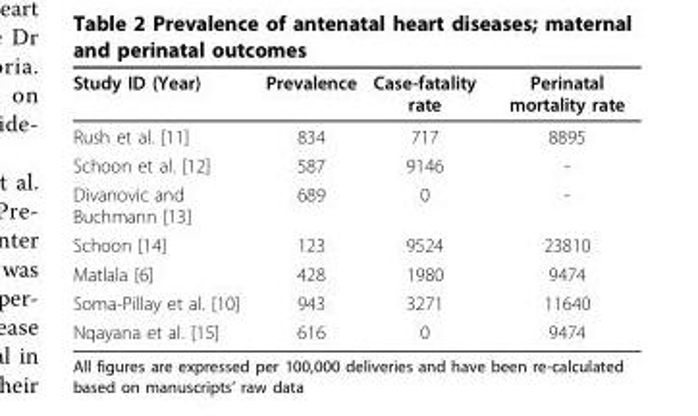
<table><thead><tr><td>Study ID (Year)</td><td>Prevalence</td><td>Case-fatality rate</td><td>Perinatal mortality rate</td></tr></thead><tbody><tr><td>Rush et al. [11]</td><td>834</td><td>717</td><td>8895</td></tr><tr><td>Schoon et al. [12]</td><td>587</td><td>9146</td><td>-</td></tr><tr><td>Divanovic and Buchmann [13]</td><td>689</td><td>0</td><td>-</td></tr><tr><td>Schoon [14]</td><td>123</td><td>9524</td><td>23810</td></tr><tr><td>Matlala [6]</td><td>428</td><td>1980</td><td>9474</td></tr><tr><td>Soma-Pillay et al. [10]</td><td>943</td><td>3271</td><td>11640</td></tr><tr><td>Nqayana et al. [15]</td><td>616</td><td>0</td><td>9474</td></tr></tbody></table>